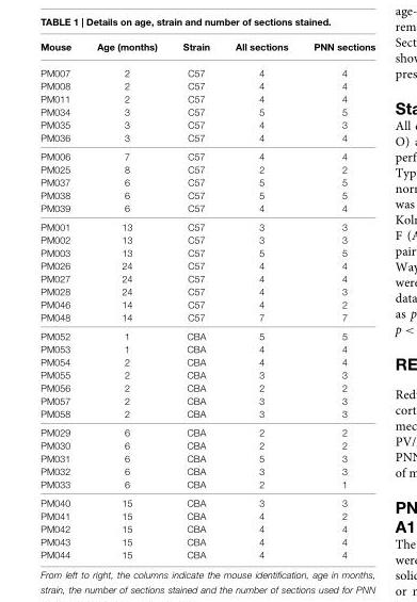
<table><thead><tr><td>Mouse</td><td>Age (months)</td><td>Strain</td><td>All sections</td><td>PNN sections</td></tr></thead><tbody><tr><td>PM007</td><td>2</td><td>C57</td><td>4</td><td>4</td></tr><tr><td>PM008</td><td>2</td><td>C57</td><td>4</td><td>4</td></tr><tr><td>PM011</td><td>2</td><td>C57</td><td>4</td><td>4</td></tr><tr><td>PM034</td><td>3</td><td>C57</td><td>5</td><td>5</td></tr><tr><td>PM035</td><td>3</td><td>C57</td><td>4</td><td>3</td></tr><tr><td>PM036</td><td>3</td><td>C57</td><td>4</td><td>4</td></tr><tr><td>PM006</td><td>7</td><td>C57</td><td>4</td><td>4</td></tr><tr><td>PM025</td><td>8</td><td>C57</td><td>2</td><td>2</td></tr><tr><td>PM037</td><td>6</td><td>C57</td><td>5</td><td>5</td></tr><tr><td>PM038</td><td>6</td><td>C57</td><td>5</td><td>5</td></tr><tr><td>PM039</td><td>6</td><td>C57</td><td>4</td><td>4</td></tr><tr><td>PM001</td><td>13</td><td>C57</td><td>3</td><td>3</td></tr><tr><td>PM002</td><td>13</td><td>C57</td><td>3</td><td>3</td></tr><tr><td>PM003</td><td>13</td><td>C57</td><td>5</td><td>5</td></tr><tr><td>PM026</td><td>24</td><td>C57</td><td>4</td><td>4</td></tr><tr><td>PM027</td><td>24</td><td>C57</td><td>4</td><td>4</td></tr><tr><td>PM028</td><td>24</td><td>C57</td><td>4</td><td>3</td></tr><tr><td>PM046</td><td>14</td><td>C57</td><td>4</td><td>2</td></tr><tr><td>PM048</td><td>14</td><td>C57</td><td>7</td><td>7</td></tr><tr><td>PM052</td><td>1</td><td>CBA</td><td>5</td><td>5</td></tr><tr><td>PM053</td><td>1</td><td>CBA</td><td>4</td><td>4</td></tr><tr><td>PM054</td><td>2</td><td>CBA</td><td>4</td><td>4</td></tr><tr><td>PM055</td><td>2</td><td>CBA</td><td>3</td><td>3</td></tr><tr><td>PM056</td><td>2</td><td>CBA</td><td>2</td><td>2</td></tr><tr><td>PM057</td><td>2</td><td>CBA</td><td>3</td><td>3</td></tr><tr><td>PM058</td><td>2</td><td>CBA</td><td>3</td><td>3</td></tr><tr><td>PM029</td><td>6</td><td>CBA</td><td>2</td><td>2</td></tr><tr><td>PM030</td><td>6</td><td>CBA</td><td>2</td><td>2</td></tr><tr><td>PM031</td><td>6</td><td>CBA</td><td>5</td><td>3</td></tr><tr><td>PM032</td><td>6</td><td>CBA</td><td>3</td><td>3</td></tr><tr><td>PM033</td><td>6</td><td>CBA</td><td>2</td><td>1</td></tr><tr><td>PM040</td><td>15</td><td>CBA</td><td>3</td><td>3</td></tr><tr><td>PM041</td><td>15</td><td>CBA</td><td>4</td><td>2</td></tr><tr><td>PM042</td><td>15</td><td>CBA</td><td>4</td><td>4</td></tr><tr><td>PM043</td><td>15</td><td>CBA</td><td>4</td><td>4</td></tr><tr><td>PM044</td><td>15</td><td>CBA</td><td>4</td><td>4</td></tr></tbody></table>